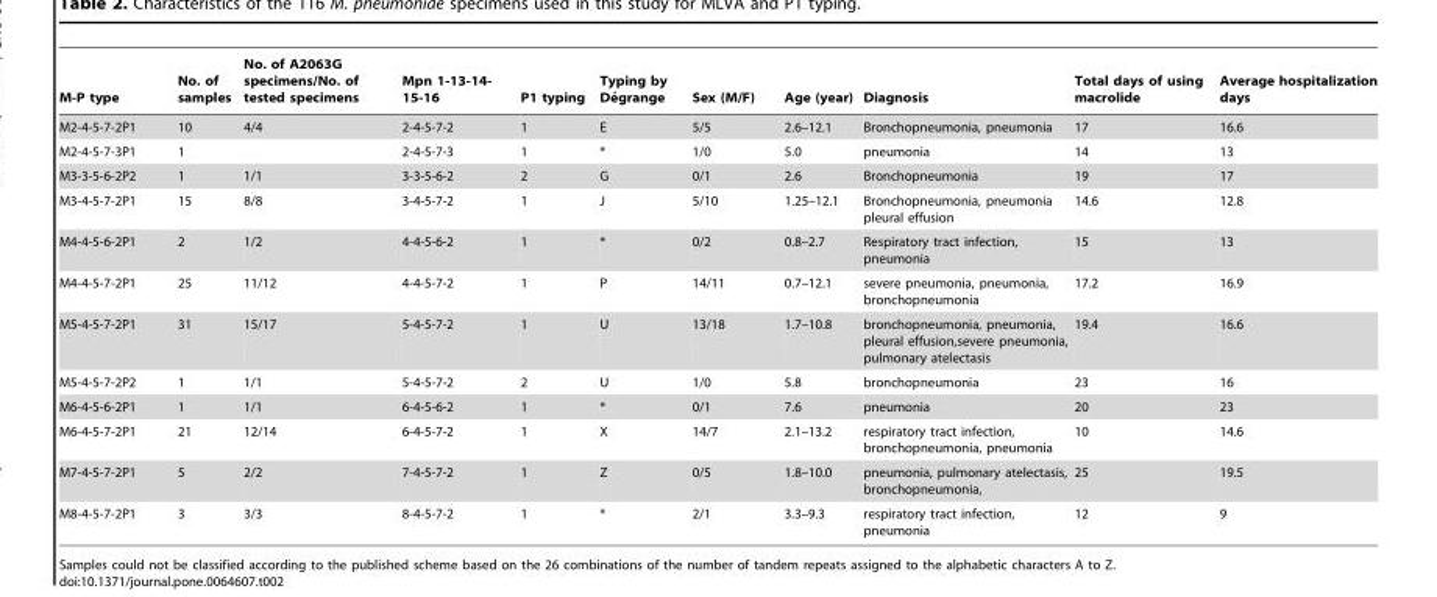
<table><thead><tr><td>M-P type</td><td>No. of samples</td><td>No. of A2063G specimens/No. of tested specimens</td><td>Mpn 1-13-14- 15-16</td><td>P1 typing</td><td>Typing by De´grange</td><td>Sex (M/F)</td><td>Age (year)</td><td>Diagnosis</td><td>Total days of using macrolide</td><td>Average hospitalization days</td></tr></thead><tbody><tr><td>M2-4-5-7-2P1</td><td>10</td><td>4/4</td><td>2-4-5-7-2</td><td>1</td><td>E</td><td>5/5</td><td>2.6–12.1</td><td>Bronchopneumonia, pneumonia</td><td>17</td><td>16.6</td></tr><tr><td>M2-4-5-7-3P1</td><td>1</td><td></td><td>2-4-5-7-3</td><td>1</td><td>*</td><td>1/0</td><td>5.0</td><td>pneumonia</td><td>14</td><td>13</td></tr><tr><td>M3-3-5-6-2P2</td><td>1</td><td>1/1</td><td>3-3-5-6-2</td><td>2</td><td>G</td><td>0/1</td><td>2.6</td><td>Bronchopneumonia</td><td>19</td><td>17</td></tr><tr><td>M3-4-5-7-2P1</td><td>15</td><td>8/8</td><td>3-4-5-7-2</td><td>1</td><td>J</td><td>5/10</td><td>1.25–12.1</td><td>Bronchopneumonia, pneumonia pleural effusion</td><td>14.6</td><td>12.8</td></tr><tr><td>M4-4-5-6-2P1</td><td>2</td><td>1/2</td><td>4-4-5-6-2</td><td>1</td><td>*</td><td>0/2</td><td>0.8–2.7</td><td>Respiratory tract infection, pneumonia</td><td>15</td><td>13</td></tr><tr><td>M4-4-5-7-2P1</td><td>25</td><td>11/12</td><td>4-4-5-7-2</td><td>1</td><td>P</td><td>14/11</td><td>0.7–12.1</td><td>severe pneumonia, pneumonia, bronchopneumonia</td><td>17.2</td><td>16.9</td></tr><tr><td>M5-4-5-7-2P1</td><td>31</td><td>15/17</td><td>5-4-5-7-2</td><td>1</td><td>U</td><td>13/18</td><td>1.7–10.8</td><td>bronchopneumonia, pneumonia, pleural effusion,severe pneumonia, pulmonary atelectasis</td><td>19.4</td><td>16.6</td></tr><tr><td>M5-4-5-7-2P2</td><td>1</td><td>1/1</td><td>5-4-5-7-2</td><td>2</td><td>U</td><td>1/0</td><td>5.8</td><td>bronchopneumonia</td><td>23</td><td>16</td></tr><tr><td>M6-4-5-6-2P1</td><td>1</td><td>1/1</td><td>6-4-5-6-2</td><td>1</td><td>*</td><td>0/1</td><td>7.6</td><td>pneumonia</td><td>20</td><td>23</td></tr><tr><td>M6-4-5-7-2P1</td><td>21</td><td>12/14</td><td>6-4-5-7-2</td><td>1</td><td>X</td><td>14/7</td><td>2.1–13.2</td><td>respiratory tract infection, bronchopneumonia, pneumonia</td><td>10</td><td>14.6</td></tr><tr><td>M7-4-5-7-2P1</td><td>5</td><td>2/2</td><td>7-4-5-7-2</td><td>1</td><td>Z</td><td>0/5</td><td>1.8–10.0</td><td>pneumonia, pulmonary atelectasis, bronchopneumonia,</td><td>25</td><td>19.5</td></tr><tr><td>M8-4-5-7-2P1</td><td>3</td><td>3/3</td><td>8-4-5-7-2</td><td>1</td><td>*</td><td>2/1</td><td>3.3–9.3</td><td>respiratory tract infection, pneumonia</td><td>12</td><td>9</td></tr></tbody></table>